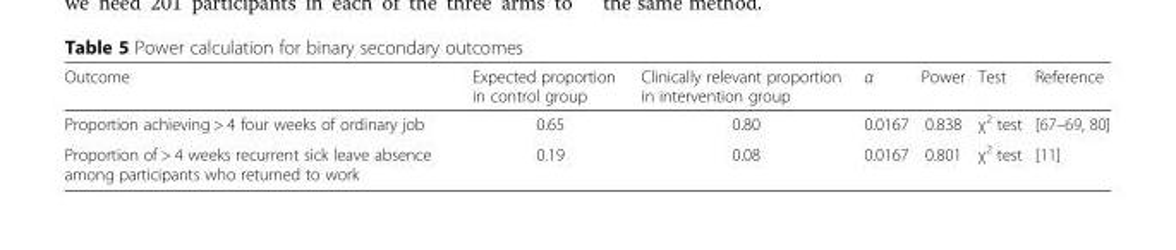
<table><thead><tr><td>Outcome</td><td>Expected proportion in control group</td><td>Clinically relevant proportion in intervention group</td><td>α</td><td>Power</td><td>Test</td><td>Reference</td></tr></thead><tbody><tr><td>Proportion achieving &gt; 4 four weeks of ordinary job</td><td>0.65</td><td>0.80</td><td>0.0167</td><td>0.838</td><td>χ<sup>2</sup> test</td><td>[67–69, 80]</td></tr><tr><td>Proportion of &gt; 4 weeks recurrent sick leave absence among participants who returned to work</td><td>0.19</td><td>0.08</td><td>0.0167</td><td>0.801</td><td>χ<sup>2</sup> test</td><td>[11]</td></tr></tbody></table>